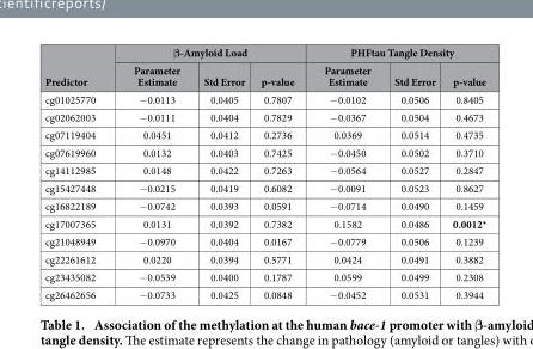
<table><thead><tr><td rowspan="2">Predictor</td><td colspan="3">β-Amyloid Load</td><td colspan="3">PHFtau Tangle Density</td></tr><tr><td>Parameter Estimate</td><td>Std Error</td><td>p-value</td><td>Parameter Estimate</td><td>Std Error</td><td>p-value</td></tr></thead><tbody><tr><td>cg01025770</td><td>− 0.0113</td><td>0.0405</td><td>0.7807</td><td>− 0.0102</td><td>0.0506</td><td>0.8405</td></tr><tr><td>cg02062003</td><td>− 0.0111</td><td>0.0404</td><td>0.7829</td><td>− 0.0367</td><td>0.0504</td><td>0.4673</td></tr><tr><td>cg07119404</td><td>0.0451</td><td>0.0412</td><td>0.2736</td><td>0.0369</td><td>0.0514</td><td>0.4735</td></tr><tr><td>cg07619960</td><td>0.0132</td><td>0.0403</td><td>0.7425</td><td>− 0.0450</td><td>0.0502</td><td>0.3710</td></tr><tr><td>cg14112985</td><td>0.0148</td><td>0.0422</td><td>0.7263</td><td>− 0.0564</td><td>0.0527</td><td>0.2847</td></tr><tr><td>cg15427448</td><td>− 0.0215</td><td>0.0419</td><td>0.6082</td><td>− 0.0091</td><td>0.0523</td><td>0.8627</td></tr><tr><td>cg16822189</td><td>− 0.0742</td><td>0.0393</td><td>0.0591</td><td>− 0.0714</td><td>0.0490</td><td>0.1459</td></tr><tr><td>cg17007365</td><td>0.0131</td><td>0.0392</td><td>0.7382</td><td>0.1582</td><td>0.0486</td><td>0.0012*</td></tr><tr><td>cg21048949</td><td>− 0.0970</td><td>0.0404</td><td>0.0167</td><td>− 0.0779</td><td>0.0506</td><td>0.1239</td></tr><tr><td>cg22261612</td><td>0.0220</td><td>0.0394</td><td>0.5771</td><td>0.0424</td><td>0.0491</td><td>0.3882</td></tr><tr><td>cg23435082</td><td>− 0.0539</td><td>0.0400</td><td>0.1787</td><td>0.0599</td><td>0.0499</td><td>0.2308</td></tr><tr><td>cg26462656</td><td>− 0.0733</td><td>0.0425</td><td>0.0848</td><td>− 0.0452</td><td>0.0531</td><td>0.3944</td></tr></tbody></table>